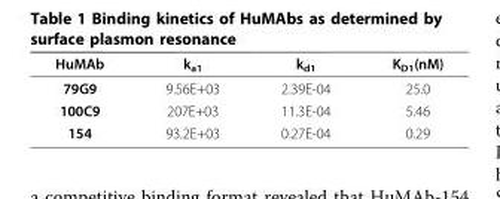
<table><thead><tr><td>HuMAb</td><td>k<sub>a1</sub></td><td>k<sub>d1</sub></td><td>K<sub>D1</sub>(nM)</td></tr></thead><tbody><tr><td>79G9</td><td>9.56E+03</td><td>2.39E-04</td><td>25.0</td></tr><tr><td>100C9</td><td>207E+03</td><td>11.3E-04</td><td>5.46</td></tr><tr><td>154</td><td>93.2E+03</td><td>0.27E-04</td><td>0.29</td></tr></tbody></table>